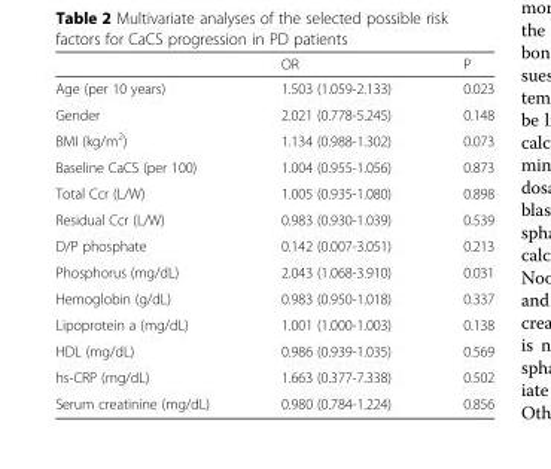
<table><thead><tr><td></td><td>OR</td><td>P</td></tr></thead><tbody><tr><td>Age (per 10 years)</td><td>1.503 (1.059-2.133)</td><td>0.023</td></tr><tr><td>Gender</td><td>2.021 (0.778-5.245)</td><td>0.148</td></tr><tr><td>BMI (kg/m<sup>2</sup>)</td><td>1.134 (0.988-1.302)</td><td>0.073</td></tr><tr><td>Baseline CaCS (per 100)</td><td>1.004 (0.955-1.056)</td><td>0.873</td></tr><tr><td>Total Ccr (L/W)</td><td>1.005 (0.935-1.080)</td><td>0.898</td></tr><tr><td>Residual Ccr (L/W)</td><td>0.983 (0.930-1.039)</td><td>0.539</td></tr><tr><td>D/P phosphate</td><td>0.142 (0.007-3.051)</td><td>0.213</td></tr><tr><td>Phosphorus (mg/dL)</td><td>2.043 (1.068-3.910)</td><td>0.031</td></tr><tr><td>Hemoglobin (g/dL)</td><td>0.983 (0.950-1.018)</td><td>0.337</td></tr><tr><td>Lipoprotein a (mg/dL)</td><td>1.001 (1.000-1.003)</td><td>0.138</td></tr><tr><td>HDL (mg/dL)</td><td>0.986 (0.939-1.035)</td><td>0.569</td></tr><tr><td>hs-CRP (mg/dL)</td><td>1.663 (0.377-7.338)</td><td>0.502</td></tr><tr><td>Serum creatinine (mg/dL)</td><td>0.980 (0.784-1.224)</td><td>0.856</td></tr></tbody></table>